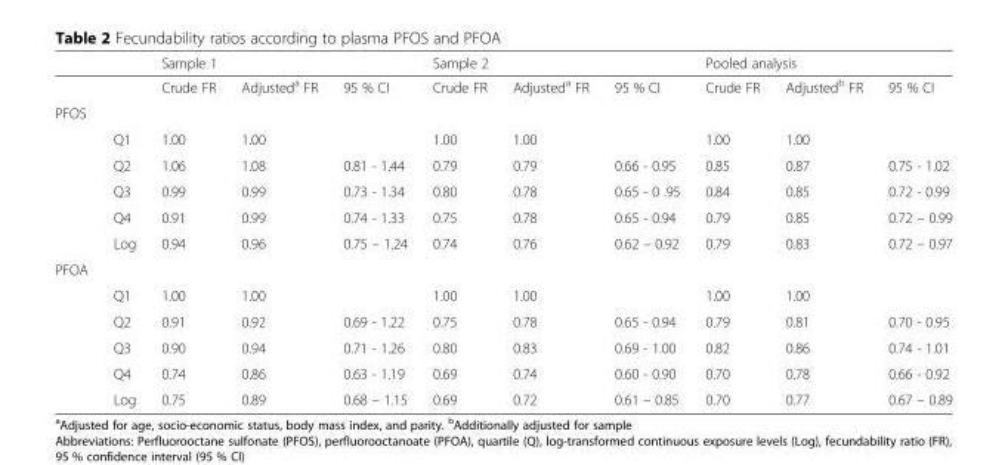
<table><thead><tr><td rowspan="2"></td><td rowspan="2"></td><td colspan="3">Sample 1</td><td colspan="3">Sample 2</td><td colspan="3">Pooled analysis</td></tr><tr><td>Crude FR</td><td>Adjusted<sup>a</sup> FR</td><td>95 % CI</td><td>Crude FR</td><td>Adjusted<sup>a</sup> FR</td><td>95 % CI</td><td>Crude FR</td><td>Adjusted<sup>b</sup> FR</td><td>95 % CI</td></tr></thead><tbody><tr><td colspan="11">PFOS</td></tr><tr><td></td><td>Q1</td><td>1.00</td><td>1.00</td><td></td><td>1.00</td><td>1.00</td><td></td><td>1.00</td><td>1.00</td><td></td></tr><tr><td></td><td>Q2</td><td>1.06</td><td>1.08</td><td>0.81 - 1.44</td><td>0.79</td><td>0.79</td><td>0.66 - 0.95</td><td>0.85</td><td>0.87</td><td>0.75 - 1.02</td></tr><tr><td></td><td>Q3</td><td>0.99</td><td>0.99</td><td>0.73 - 1.34</td><td>0.80</td><td>0.78</td><td>0.65 - 0 .95</td><td>0.84</td><td>0.85</td><td>0.72 - 0.99</td></tr><tr><td></td><td>Q4</td><td>0.91</td><td>0.99</td><td>0.74 - 1.33</td><td>0.75</td><td>0.78</td><td>0.65 - 0.94</td><td>0.79</td><td>0.85</td><td>0.72 – 0.99</td></tr><tr><td></td><td>Log</td><td>0.94</td><td>0.96</td><td>0.75 – 1.24</td><td>0.74</td><td>0.76</td><td>0.62 – 0.92</td><td>0.79</td><td>0.83</td><td>0.72 – 0.97</td></tr><tr><td colspan="11">PFOA</td></tr><tr><td></td><td>Q1</td><td>1.00</td><td>1.00</td><td></td><td>1.00</td><td>1.00</td><td></td><td>1.00</td><td>1.00</td><td></td></tr><tr><td></td><td>Q2</td><td>0.91</td><td>0.92</td><td>0.69 - 1.22</td><td>0.75</td><td>0.78</td><td>0.65 - 0.94</td><td>0.79</td><td>0.81</td><td>0.70 - 0.95</td></tr><tr><td></td><td>Q3</td><td>0.90</td><td>0.94</td><td>0.71 - 1.26</td><td>0.80</td><td>0.83</td><td>0.69 - 1.00</td><td>0.82</td><td>0.86</td><td>0.74 - 1.01</td></tr><tr><td></td><td>Q4</td><td>0.74</td><td>0.86</td><td>0.63 - 1.19</td><td>0.69</td><td>0.74</td><td>0.60 - 0.90</td><td>0.70</td><td>0.78</td><td>0.66 - 0.92</td></tr><tr><td></td><td>Log</td><td>0.75</td><td>0.89</td><td>0.68 – 1.15</td><td>0.69</td><td>0.72</td><td>0.61 – 0.85</td><td>0.70</td><td>0.77</td><td>0.67 – 0.89</td></tr></tbody></table>